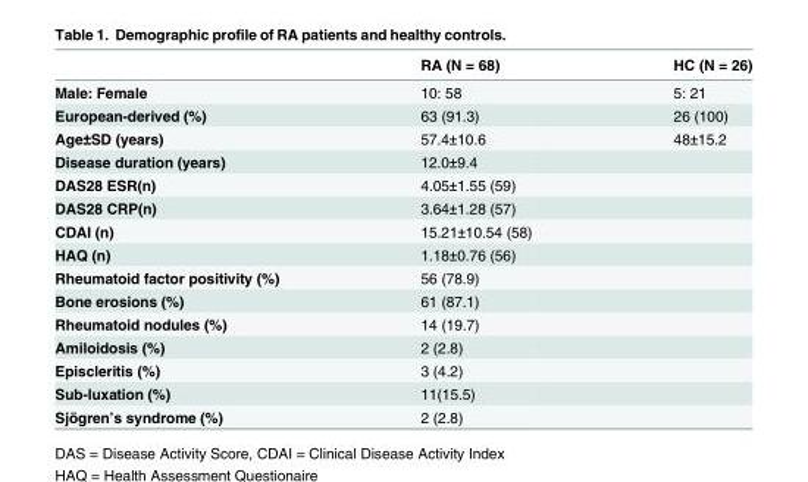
<table><thead><tr><td></td><td>RA (N = 68)</td><td>HC (N = 26)</td></tr></thead><tbody><tr><td>Male: Female</td><td>10: 58</td><td>5: 21</td></tr><tr><td>European-derived (%)</td><td>63 (91.3)</td><td>26 (100)</td></tr><tr><td>Age±SD (years)</td><td>57.4±10.6</td><td>48±15.2</td></tr><tr><td>Disease duration (years)</td><td>12.0±9.4</td><td></td></tr><tr><td>DAS28 ESR(n)</td><td>4.05±1.55 (59)</td><td></td></tr><tr><td>DAS28 CRP(n)</td><td>3.64±1.28 (57)</td><td></td></tr><tr><td>CDAI (n)</td><td>15.21±10.54 (58)</td><td></td></tr><tr><td>HAQ (n)</td><td>1.18±0.76 (56)</td><td></td></tr><tr><td>Rheumatoid factor positivity (%)</td><td>56 (78.9)</td><td></td></tr><tr><td>Bone erosions (%)</td><td>61 (87.1)</td><td></td></tr><tr><td>Rheumatoid nodules (%)</td><td>14 (19.7)</td><td></td></tr><tr><td>Amiloidosis (%)</td><td>2 (2.8)</td><td></td></tr><tr><td>Episcleritis (%)</td><td>3 (4.2)</td><td></td></tr><tr><td>Sub-luxation (%)</td><td>11(15.5)</td><td></td></tr><tr><td>Sjögren’s syndrome (%)</td><td>2 (2.8)</td><td></td></tr></tbody></table>